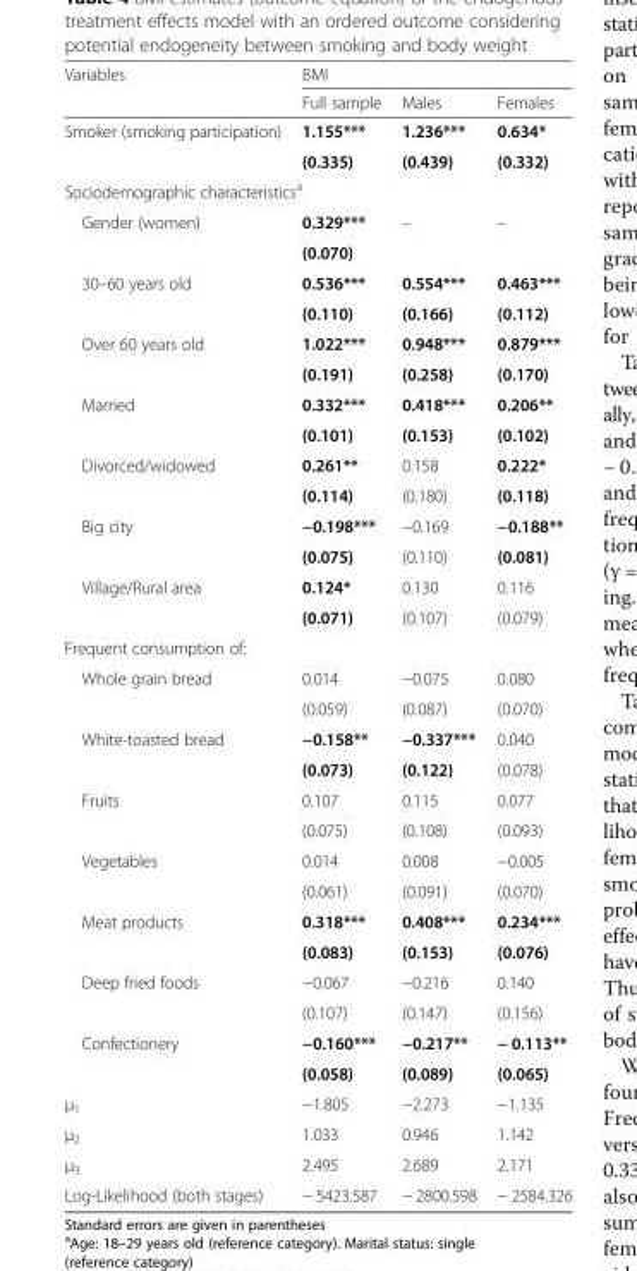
<table><thead><tr><td rowspan="2">Variables</td><td colspan="3">BMI</td></tr><tr><td>Full sample</td><td>Males</td><td>Females</td></tr></thead><tbody><tr><td rowspan="2">Smoker (smoking participation)</td><td>1.155***</td><td>1.236***</td><td>0.634*</td></tr><tr><td>(0.335)</td><td>(0.439)</td><td>(0.332)</td></tr><tr><td colspan="4">Sociodemographic characteristics<sup>a</sup></td></tr><tr><td rowspan="2">Gender (women)</td><td>0.329***</td><td>–</td><td>–</td></tr><tr><td>(0.070)</td><td></td><td></td></tr><tr><td rowspan="2">30–60 years old</td><td>0.536***</td><td>0.554***</td><td>0.463***</td></tr><tr><td>(0.110)</td><td>(0.166)</td><td>(0.112)</td></tr><tr><td rowspan="2">Over 60 years old</td><td>1.022***</td><td>0.948***</td><td>0.879***</td></tr><tr><td>(0.191)</td><td>(0.258)</td><td>(0.170)</td></tr><tr><td rowspan="2">Married</td><td>0.332***</td><td>0.418***</td><td>0.206**</td></tr><tr><td>(0.101)</td><td>(0.153)</td><td>(0.102)</td></tr><tr><td rowspan="2">Divorced/widowed</td><td>0.261**</td><td>0.158</td><td>0.222*</td></tr><tr><td>(0.114)</td><td>(0.180)</td><td>(0.118)</td></tr><tr><td rowspan="2">Big city</td><td>−0.198***</td><td>−0.169</td><td>−0.188**</td></tr><tr><td>(0.075)</td><td>(0.110)</td><td>(0.081)</td></tr><tr><td rowspan="2">Village/Rural area</td><td>0.124*</td><td>0.130</td><td>0.116</td></tr><tr><td>(0.071)</td><td>(0.107)</td><td>(0.079)</td></tr><tr><td colspan="4">Frequent consumption of:</td></tr><tr><td rowspan="2">Whole grain bread</td><td>0.014</td><td>−0.075</td><td>0.080</td></tr><tr><td>(0.059)</td><td>(0.087)</td><td>(0.070)</td></tr><tr><td rowspan="2">White-toasted bread</td><td>−0.158**</td><td>−0.337***</td><td>0.040</td></tr><tr><td>(0.073)</td><td>(0.122)</td><td>(0.078)</td></tr><tr><td rowspan="2">Fruits</td><td>0.107</td><td>0.115</td><td>0.077</td></tr><tr><td>(0.075)</td><td>(0.108)</td><td>(0.093)</td></tr><tr><td rowspan="2">Vegetables</td><td>0.014</td><td>0.008</td><td>−0.005</td></tr><tr><td>(0.061)</td><td>(0.091)</td><td>(0.070)</td></tr><tr><td rowspan="2">Meat products</td><td>0.318***</td><td>0.408***</td><td>0.234***</td></tr><tr><td>(0.083)</td><td>(0.153)</td><td>(0.076)</td></tr><tr><td rowspan="2">Deep fried foods</td><td>−0.067</td><td>−0.216</td><td>0.140</td></tr><tr><td>(0.107)</td><td>(0.147)</td><td>(0.156)</td></tr><tr><td rowspan="2">Confectionery</td><td>−0.160***</td><td>−0.217**</td><td>− 0.113**</td></tr><tr><td>(0.058)</td><td>(0.089)</td><td>(0.065)</td></tr><tr><td>μ<sub>1</sub></td><td>−1.805</td><td>−2.273</td><td>−1.135</td></tr><tr><td>μ<sub>2</sub></td><td>1.033</td><td>0.946</td><td>1.142</td></tr><tr><td>μ<sub>3</sub></td><td>2.495</td><td>2.689</td><td>2.171</td></tr><tr><td>Log-Likelihood (both stages)</td><td>− 5423.587</td><td>− 2800.598</td><td>− 2584.326</td></tr></tbody></table>